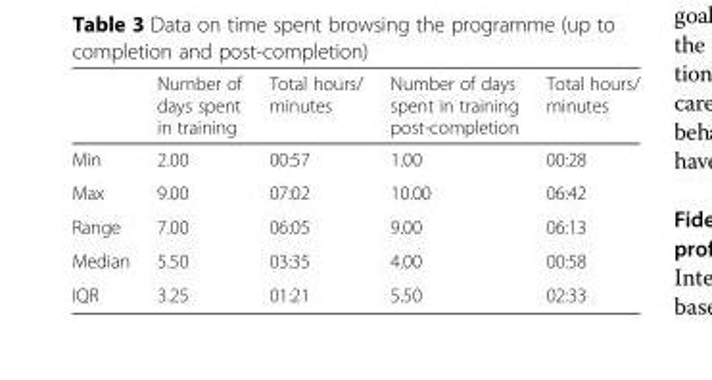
<table><thead><tr><td></td><td>Number of days spent in training</td><td>Total hours/ minutes</td><td>Number of days spent in training post-completion</td><td>Total hours/ minutes</td></tr></thead><tbody><tr><td>Min</td><td>2.00</td><td>00:57</td><td>1.00</td><td>00:28</td></tr><tr><td>Max</td><td>9.00</td><td>07:02</td><td>10.00</td><td>06:42</td></tr><tr><td>Range</td><td>7.00</td><td>06:05</td><td>9.00</td><td>06:13</td></tr><tr><td>Median</td><td>5.50</td><td>03:35</td><td>4.00</td><td>00:58</td></tr><tr><td>IQR</td><td>3.25</td><td>01:21</td><td>5.50</td><td>02:33</td></tr></tbody></table>